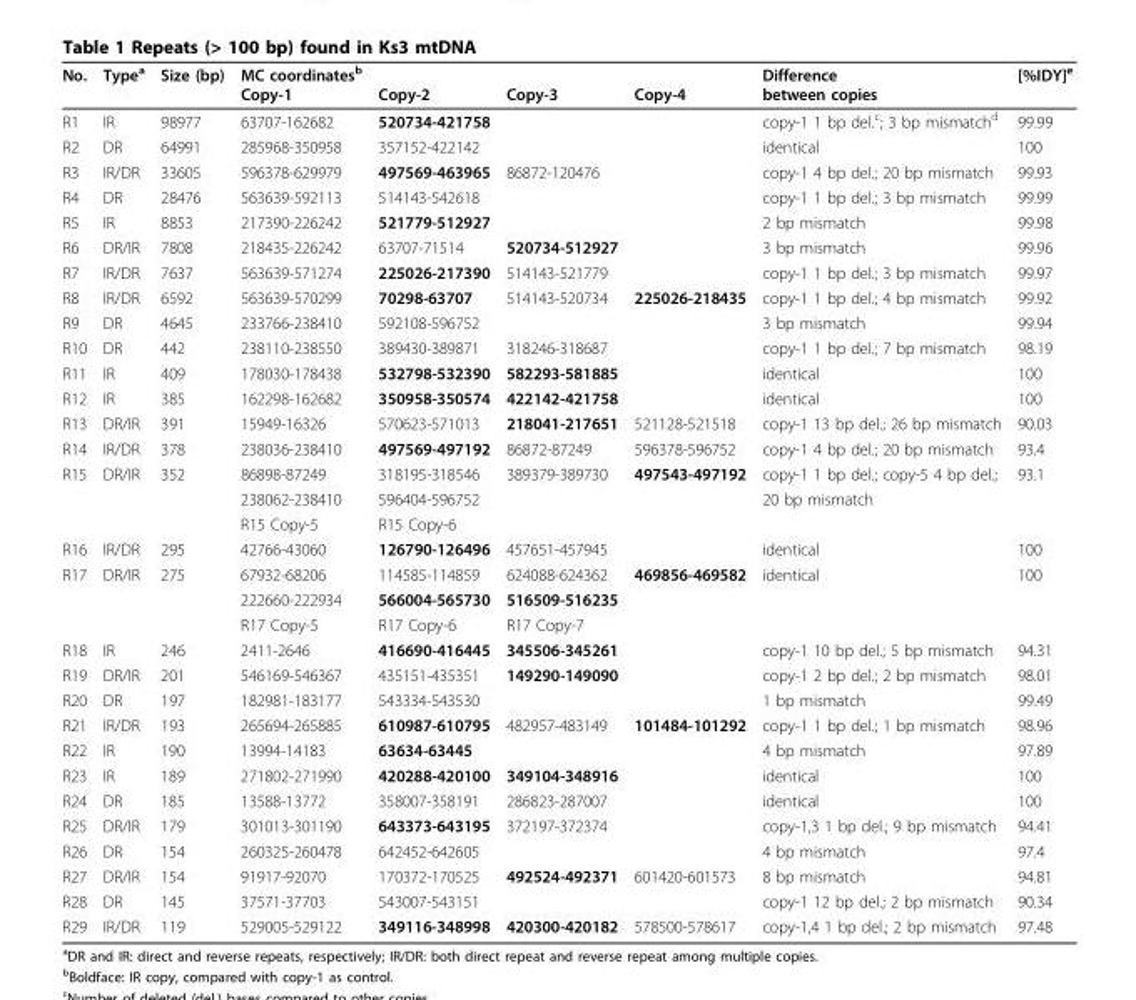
<table><thead><tr><td>No.</td><td>Type<sup>a</sup></td><td>Size (bp)</td><td>MC coordinates<sup>b</sup> Copy-1</td><td>Copy-2</td><td>Copy-3</td><td>Copy-4</td><td>Difference between copies</td><td>[%IDY]<sup>e</sup></td></tr></thead><tbody><tr><td>R1</td><td>IR</td><td>98977</td><td>63707-162682</td><td>520734-421758</td><td></td><td></td><td>copy-1 1 bp del.<sup>c</sup>; 3 bp mismatch<sup>d</sup></td><td>99.99</td></tr><tr><td>R2</td><td>DR</td><td>64991</td><td>285968-350958</td><td>357152-422142</td><td></td><td></td><td>identical</td><td>100</td></tr><tr><td>R3</td><td>IR/DR</td><td>33605</td><td>596378-629979</td><td>497569-463965</td><td>86872-120476</td><td></td><td>copy-1 4 bp del.; 20 bp mismatch</td><td>99.93</td></tr><tr><td>R4</td><td>DR</td><td>28476</td><td>563639-592113</td><td>514143-542618</td><td></td><td></td><td>copy-1 1 bp del.; 3 bp mismatch</td><td>99.99</td></tr><tr><td>R5</td><td>IR</td><td>8853</td><td>217390-226242</td><td>521779-512927</td><td></td><td></td><td>2 bp mismatch</td><td>99.98</td></tr><tr><td>R6</td><td>DR/IR</td><td>7808</td><td>218435-226242</td><td>63707-71514</td><td>520734-512927</td><td></td><td>3 bp mismatch</td><td>99.96</td></tr><tr><td>R7</td><td>IR/DR</td><td>7637</td><td>563639-571274</td><td>225026-217390</td><td>514143-521779</td><td></td><td>copy-1 1 bp del.; 3 bp mismatch</td><td>99.97</td></tr><tr><td>R8</td><td>IR/DR</td><td>6592</td><td>563639-570299</td><td>70298-63707</td><td>514143-520734</td><td>225026-218435</td><td>copy-1 1 bp del.; 4 bp mismatch</td><td>99.92</td></tr><tr><td>R9</td><td>DR</td><td>4645</td><td>233766-238410</td><td>592108-596752</td><td></td><td></td><td>3 bp mismatch</td><td>99.94</td></tr><tr><td>R10</td><td>DR</td><td>442</td><td>238110-238550</td><td>389430-389871</td><td>318246-318687</td><td></td><td>copy-1 1 bp del.; 7 bp mismatch</td><td>98.19</td></tr><tr><td>R11</td><td>IR</td><td>409</td><td>178030-178438</td><td>532798-532390</td><td>582293-581885</td><td></td><td>identical</td><td>100</td></tr><tr><td>R12</td><td>IR</td><td>385</td><td>162298-162682</td><td>350958-350574</td><td>422142-421758</td><td></td><td>identical</td><td>100</td></tr><tr><td>R13</td><td>DR/IR</td><td>391</td><td>15949-16326</td><td>570623-571013</td><td>218041-217651</td><td>521128-521518</td><td>copy-1 13 bp del.; 26 bp mismatch</td><td>90.03</td></tr><tr><td>R14</td><td>IR/DR</td><td>378</td><td>238036-238410</td><td>497569-497192</td><td>86872-87249</td><td>596378-596752</td><td>copy-1 4 bp del.; 20 bp mismatch</td><td>93.4</td></tr><tr><td rowspan="3">R15</td><td>DR/IR</td><td>352</td><td>86898-87249</td><td>318195-318546</td><td>389379-389730</td><td>497543-497192</td><td>copy-1 1 bp del.; copy-5 4 bp del.;</td><td>93.1</td></tr><tr><td></td><td></td><td>238062-238410</td><td>596404-596752</td><td></td><td></td><td>20 bp mismatch</td><td></td></tr><tr><td></td><td></td><td>R15 Copy-5</td><td>R15 Copy-6</td><td></td><td></td><td></td><td></td></tr><tr><td>R16</td><td>IR/DR</td><td>295</td><td>42766-43060</td><td>126790-126496</td><td>457651-457945</td><td></td><td>identical</td><td>100</td></tr><tr><td rowspan="3">R17</td><td>DR/IR</td><td>275</td><td>67932-68206</td><td>114585-114859</td><td>624088-624362</td><td>469856-469582</td><td>identical</td><td>100</td></tr><tr><td></td><td></td><td>222660-222934</td><td>566004-565730</td><td>516509-516235</td><td></td><td></td><td></td></tr><tr><td></td><td></td><td>R17 Copy-5</td><td>R17 Copy-6</td><td>R17 Copy-7</td><td></td><td></td><td></td></tr><tr><td>R18</td><td>IR</td><td>246</td><td>2411-2646</td><td>416690-416445</td><td>345506-345261</td><td></td><td>copy-1 10 bp del.; 5 bp mismatch</td><td>94.31</td></tr><tr><td>R19</td><td>DR/IR</td><td>201</td><td>546169-546367</td><td>435151-435351</td><td>149290-149090</td><td></td><td>copy-1 2 bp del.; 2 bp mismatch</td><td>98.01</td></tr><tr><td>R20</td><td>DR</td><td>197</td><td>182981-183177</td><td>543334-543530</td><td></td><td></td><td>1 bp mismatch</td><td>99.49</td></tr><tr><td>R21</td><td>IR/DR</td><td>193</td><td>265694-265885</td><td>610987-610795</td><td>482957-483149</td><td>101484-101292</td><td>copy-1 1 bp del.; 1 bp mismatch</td><td>98.96</td></tr><tr><td>R22</td><td>IR</td><td>190</td><td>13994-14183</td><td>63634-63445</td><td></td><td></td><td>4 bp mismatch</td><td>97.89</td></tr><tr><td>R23</td><td>IR</td><td>189</td><td>271802-271990</td><td>420288-420100</td><td>349104-348916</td><td></td><td>identical</td><td>100</td></tr><tr><td>R24</td><td>DR</td><td>185</td><td>13588-13772</td><td>358007-358191</td><td>286823-287007</td><td></td><td>identical</td><td>100</td></tr><tr><td>R25</td><td>DR/IR</td><td>179</td><td>301013-301190</td><td>643373-643195</td><td>372197-372374</td><td></td><td>copy-1,3 1 bp del.; 9 bp mismatch</td><td>94.41</td></tr><tr><td>R26</td><td>DR</td><td>154</td><td>260325-260478</td><td>642452-642605</td><td></td><td></td><td>4 bp mismatch</td><td>97.4</td></tr><tr><td>R27</td><td>DR/IR</td><td>154</td><td>91917-92070</td><td>170372-170525</td><td>492524-492371</td><td>601420-601573</td><td>8 bp mismatch</td><td>94.81</td></tr><tr><td>R28</td><td>DR</td><td>145</td><td>37571-37703</td><td>543007-543151</td><td></td><td></td><td>copy-1 12 bp del.; 2 bp mismatch</td><td>90.34</td></tr><tr><td>R29</td><td>IR/DR</td><td>119</td><td>529005-529122</td><td>349116-348998</td><td>420300-420182</td><td>578500-578617</td><td>copy-1,4 1 bp del.; 2 bp mismatch</td><td>97.48</td></tr></tbody></table>